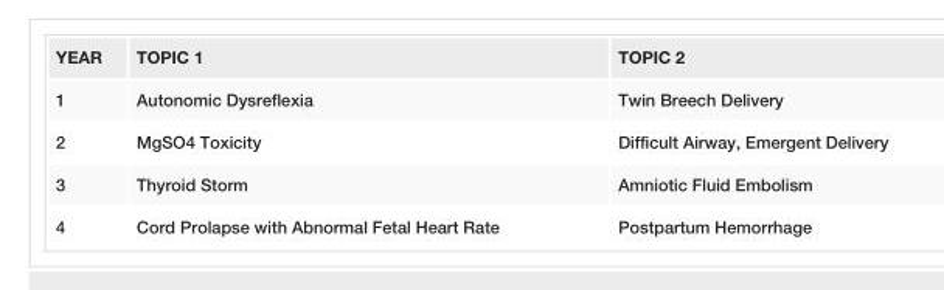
<table><tbody><tr><td>YEAR</td><td>TOPIC 1</td><td>TOPIC 2</td></tr><tr><td>1</td><td>Autonomic Dysreflexia</td><td>Twin Breech Delivery</td></tr><tr><td>2</td><td>MgSO4 Toxicity</td><td>Difficult Airway, Emergent Delivery</td></tr><tr><td>3</td><td>Thyroid Storm</td><td>Amniotic Fluid Embolism</td></tr><tr><td>4</td><td>Cord Prolapse with Abnormal Fetal Heart Rate</td><td>Postpartum Hemorrhage</td></tr></tbody></table>